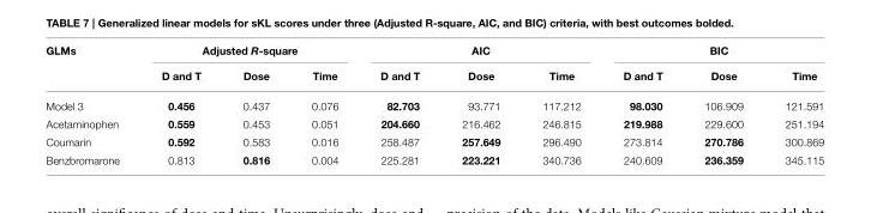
<table><thead><tr><td rowspan="2">GLMs</td><td colspan="3">Adjusted R-square</td><td colspan="3">AIC</td><td colspan="3">BIC</td></tr><tr><td>D and T</td><td>Dose</td><td>Time</td><td>D and T</td><td>Dose</td><td>Time</td><td>D and T</td><td>Dose</td><td>Time</td></tr></thead><tbody><tr><td>Model 3</td><td>0.456</td><td>0.437</td><td>0.076</td><td>82.703</td><td>93.771</td><td>117.212</td><td>98.030</td><td>106.909</td><td>121.591</td></tr><tr><td>Acetaminophen</td><td>0.559</td><td>0.453</td><td>0.051</td><td>204.660</td><td>216.462</td><td>246.815</td><td>219.988</td><td>229.600</td><td>251.194</td></tr><tr><td>Coumarin</td><td>0.592</td><td>0.583</td><td>0.016</td><td>258.487</td><td>257.649</td><td>296.490</td><td>273.814</td><td>270.786</td><td>300.869</td></tr><tr><td>Benzbromarone</td><td>0.813</td><td>0.816</td><td>0.004</td><td>225.281</td><td>223.221</td><td>340.736</td><td>240.609</td><td>236.359</td><td>345.115</td></tr></tbody></table>